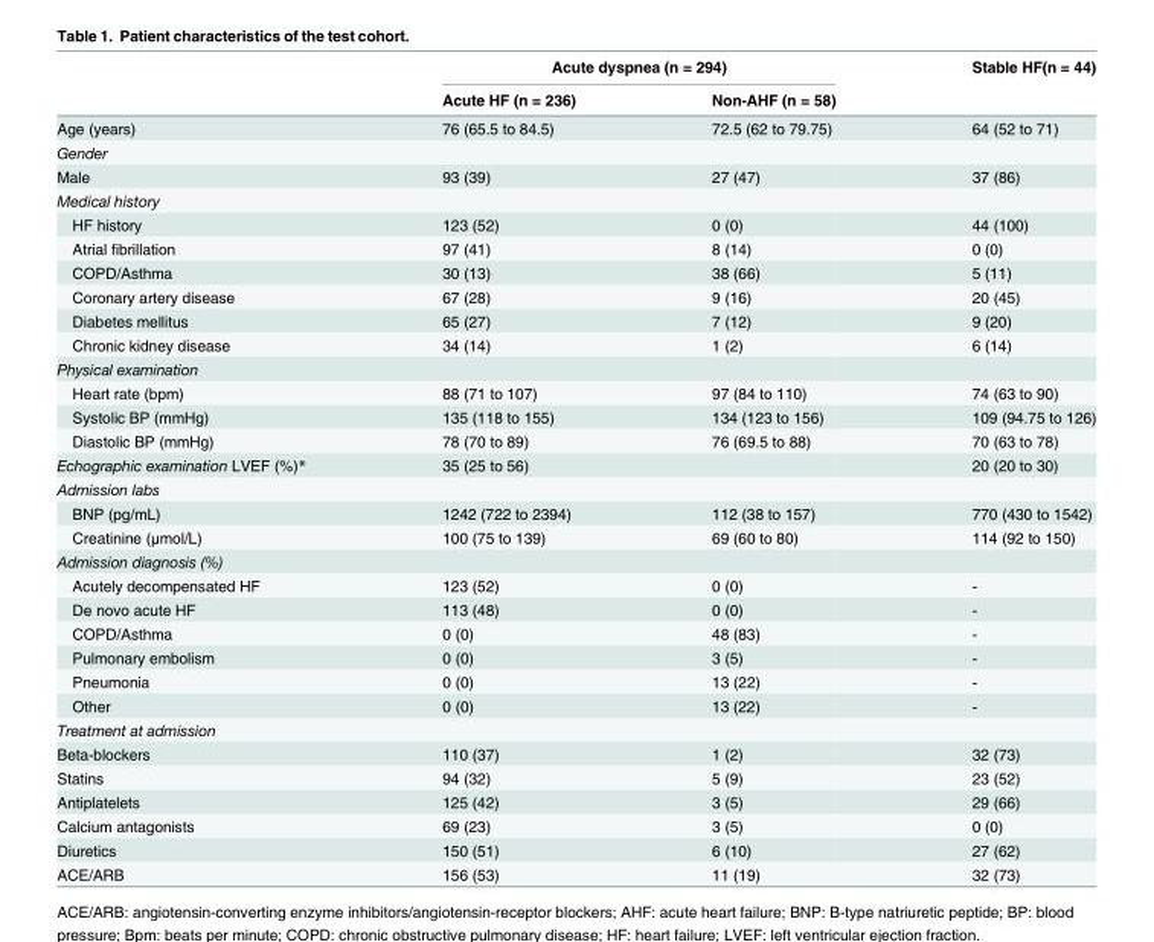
<table><thead><tr><td rowspan="2"></td><td colspan="2">Acute dyspnea (n = 294)</td><td rowspan="2">Stable HF(n = 44)</td></tr><tr><td>Acute HF (n = 236)</td><td>Non-AHF (n = 58)</td></tr></thead><tbody><tr><td>Age (years)</td><td>76 (65.5 to 84.5)</td><td>72.5 (62 to 79.75)</td><td>64 (52 to 71)</td></tr><tr><td colspan="4">Gender</td></tr><tr><td>Male</td><td>93 (39)</td><td>27 (47)</td><td>37 (86)</td></tr><tr><td colspan="4">Medical history</td></tr><tr><td>HF history</td><td>123 (52)</td><td>0 (0)</td><td>44 (100)</td></tr><tr><td>Atrial fibrillation</td><td>97 (41)</td><td>8 (14)</td><td>0 (0)</td></tr><tr><td>COPD/Asthma</td><td>30 (13)</td><td>38 (66)</td><td>5 (11)</td></tr><tr><td>Coronary artery disease</td><td>67 (28)</td><td>9 (16)</td><td>20 (45)</td></tr><tr><td>Diabetes mellitus</td><td>65 (27)</td><td>7 (12)</td><td>9 (20)</td></tr><tr><td>Chronic kidney disease</td><td>34 (14)</td><td>1 (2)</td><td>6 (14)</td></tr><tr><td colspan="4">Physical examination</td></tr><tr><td>Heart rate (bpm)</td><td>88 (71 to 107)</td><td>97 (84 to 110)</td><td>74 (63 to 90)</td></tr><tr><td>Systolic BP (mmHg)</td><td>135 (118 to 155)</td><td>134 (123 to 156)</td><td>109 (94.75 to 126)</td></tr><tr><td>Diastolic BP (mmHg)</td><td>78 (70 to 89)</td><td>76 (69.5 to 88)</td><td>70 (63 to 78)</td></tr><tr><td>Echographic examination LVEF (%)*</td><td>35 (25 to 56)</td><td></td><td>20 (20 to 30)</td></tr><tr><td colspan="4">Admission labs</td></tr><tr><td>BNP (pg/mL)</td><td>1242 (722 to 2394)</td><td>112 (38 to 157)</td><td>770 (430 to 1542)</td></tr><tr><td>Creatinine (μmol/L)</td><td>100 (75 to 139)</td><td>69 (60 to 80)</td><td>114 (92 to 150)</td></tr><tr><td colspan="4">Admission diagnosis (%)</td></tr><tr><td>Acutely decompensated HF</td><td>123 (52)</td><td>0 (0)</td><td>-</td></tr><tr><td>De novo acute HF</td><td>113 (48)</td><td>0 (0)</td><td>-</td></tr><tr><td>COPD/Asthma</td><td>0 (0)</td><td>48 (83)</td><td>-</td></tr><tr><td>Pulmonary embolism</td><td>0 (0)</td><td>3 (5)</td><td>-</td></tr><tr><td>Pneumonia</td><td>0 (0)</td><td>13 (22)</td><td>-</td></tr><tr><td>Other</td><td>0 (0)</td><td>13 (22)</td><td>-</td></tr><tr><td colspan="4">Treatment at admission</td></tr><tr><td>Beta-blockers</td><td>110 (37)</td><td>1 (2)</td><td>32 (73)</td></tr><tr><td>Statins</td><td>94 (32)</td><td>5 (9)</td><td>23 (52)</td></tr><tr><td>Antiplatelets</td><td>125 (42)</td><td>3 (5)</td><td>29 (66)</td></tr><tr><td>Calcium antagonists</td><td>69 (23)</td><td>3 (5)</td><td>0 (0)</td></tr><tr><td>Diuretics</td><td>150 (51)</td><td>6 (10)</td><td>27 (62)</td></tr><tr><td>ACE/ARB</td><td>156 (53)</td><td>11 (19)</td><td>32 (73)</td></tr></tbody></table>